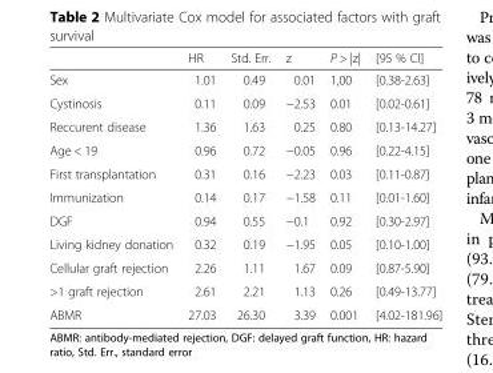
<table><thead><tr><td></td><td>HR</td><td>Std. Err.</td><td>z</td><td>P &gt; |z|</td><td>[95 % CI]</td></tr></thead><tbody><tr><td>Sex</td><td>1.01</td><td>0.49</td><td>0.01</td><td>1,00</td><td>[0.38-2.63]</td></tr><tr><td>Cystinosis</td><td>0.11</td><td>0.09</td><td>−2.53</td><td>0.01</td><td>[0.02-0.61]</td></tr><tr><td>Reccurent disease</td><td>1.36</td><td>1.63</td><td>0.25</td><td>0.80</td><td>[0.13-14.27]</td></tr><tr><td>Age &lt; 19</td><td>0.96</td><td>0.72</td><td>−0.05</td><td>0.96</td><td>[0.22-4.15]</td></tr><tr><td>First transplantation</td><td>0.31</td><td>0.16</td><td>−2.23</td><td>0.03</td><td>[0.11-0.87]</td></tr><tr><td>Immunization</td><td>0.14</td><td>0.17</td><td>−1.58</td><td>0.11</td><td>[0.01-1.60]</td></tr><tr><td>DGF</td><td>0.94</td><td>0.55</td><td>−0.1</td><td>0.92</td><td>[0.30-2.97]</td></tr><tr><td>Living kidney donation</td><td>0.32</td><td>0.19</td><td>−1.95</td><td>0.05</td><td>[0.10-1.00]</td></tr><tr><td>Cellular graft rejection</td><td>2.26</td><td>1.11</td><td>1.67</td><td>0.09</td><td>[0.87-5.90]</td></tr><tr><td>&gt;1 graft rejection</td><td>2.61</td><td>2.21</td><td>1.13</td><td>0.26</td><td>[0.49-13.77]</td></tr><tr><td>ABMR</td><td>27.03</td><td>26.30</td><td>3.39</td><td>0.001</td><td>[4.02-181.96]</td></tr></tbody></table>